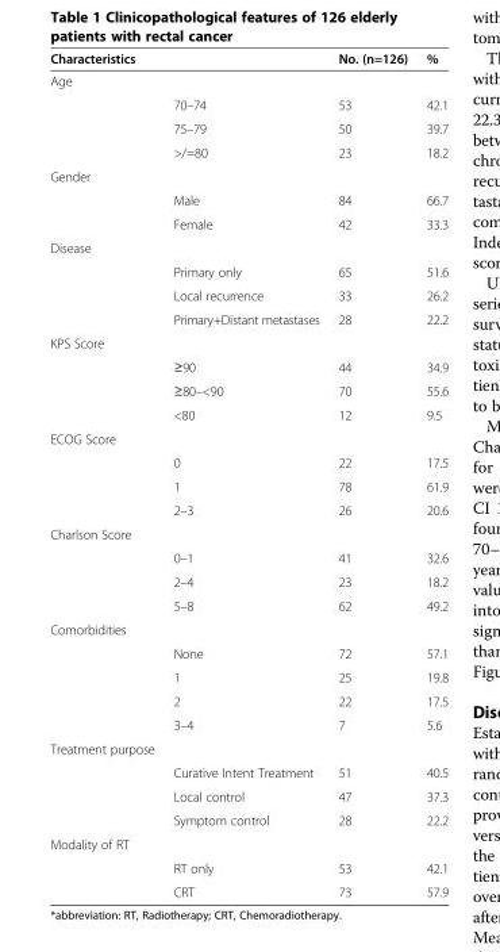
<table><thead><tr><td colspan="2">Characteristics</td><td rowspan="2">No. (n=126)</td><td rowspan="2">%</td></tr><tr><td>Age</td><td></td></tr></thead><tbody><tr><td rowspan="3"></td><td>70–74</td><td>53</td><td>42.1</td></tr><tr><td>75–79</td><td>50</td><td>39.7</td></tr><tr><td>&gt;/=80</td><td>23</td><td>18.2</td></tr><tr><td colspan="4">Gender</td></tr><tr><td rowspan="2"></td><td>Male</td><td>84</td><td>66.7</td></tr><tr><td>Female</td><td>42</td><td>33.3</td></tr><tr><td colspan="4">Disease</td></tr><tr><td rowspan="3"></td><td>Primary only</td><td>65</td><td>51.6</td></tr><tr><td>Local recurrence</td><td>33</td><td>26.2</td></tr><tr><td>Primary+Distant metastases</td><td>28</td><td>22.2</td></tr><tr><td colspan="4">KPS Score</td></tr><tr><td rowspan="3"></td><td>≥90</td><td>44</td><td>34.9</td></tr><tr><td>≥80–&lt;90</td><td>70</td><td>55.6</td></tr><tr><td>&lt;80</td><td>12</td><td>9.5</td></tr><tr><td colspan="4">ECOG Score</td></tr><tr><td rowspan="3"></td><td>0</td><td>22</td><td>17.5</td></tr><tr><td>1</td><td>78</td><td>61.9</td></tr><tr><td>2–3</td><td>26</td><td>20.6</td></tr><tr><td colspan="4">Charlson Score</td></tr><tr><td rowspan="3"></td><td>0–1</td><td>41</td><td>32.6</td></tr><tr><td>2–4</td><td>23</td><td>18.2</td></tr><tr><td>5–8</td><td>62</td><td>49.2</td></tr><tr><td colspan="4">Comorbidities</td></tr><tr><td></td><td>None</td><td>72</td><td>57.1</td></tr><tr><td></td><td>1</td><td>25</td><td>19.8</td></tr><tr><td></td><td>2</td><td>22</td><td>17.5</td></tr><tr><td></td><td>3–4</td><td>7</td><td>5.6</td></tr><tr><td colspan="4">Treatment purpose</td></tr><tr><td rowspan="3"></td><td>Curative Intent Treatment</td><td>51</td><td>40.5</td></tr><tr><td>Local control</td><td>47</td><td>37.3</td></tr><tr><td>Symptom control</td><td>28</td><td>22.2</td></tr><tr><td colspan="4">Modality of RT</td></tr><tr><td></td><td>RT only</td><td>53</td><td>42.1</td></tr><tr><td></td><td>CRT</td><td>73</td><td>57.9</td></tr></tbody></table>